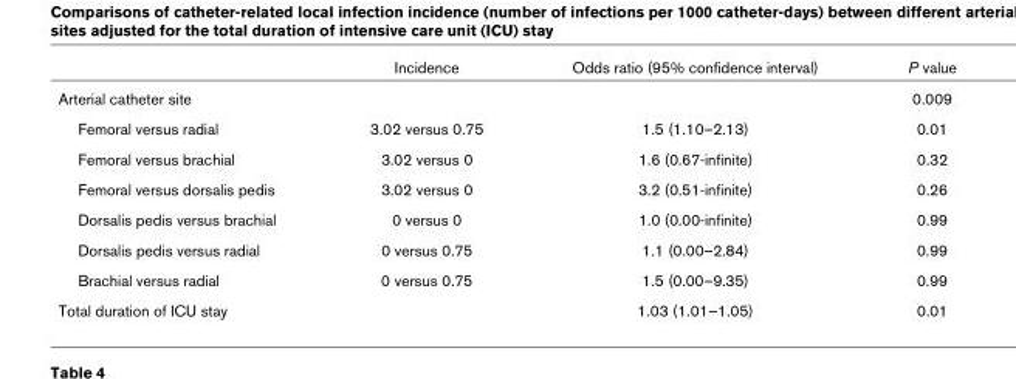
<table><thead><tr><td></td><td>Incidence</td><td>Odds ratio (95% confidence interval)</td><td>P value</td></tr></thead><tbody><tr><td>Arterial catheter site</td><td></td><td></td><td>0.009</td></tr><tr><td>Femoral versus radial</td><td>3.02 versus 0.75</td><td>1.5 (1.10–2.13)</td><td>0.01</td></tr><tr><td>Femoral versus brachial</td><td>3.02 versus 0</td><td>1.6 (0.67-infinite)</td><td>0.32</td></tr><tr><td>Femoral versus dorsalis pedis</td><td>3.02 versus 0</td><td>3.2 (0.51-infinite)</td><td>0.26</td></tr><tr><td>Dorsalis pedis versus brachial</td><td>0 versus 0</td><td>1.0 (0.00-infinite)</td><td>0.99</td></tr><tr><td>Dorsalis pedis versus radial</td><td>0 versus 0.75</td><td>1.1 (0.00–2.84)</td><td>0.99</td></tr><tr><td>Brachial versus radial</td><td>0 versus 0.75</td><td>1.5 (0.00–9.35)</td><td>0.99</td></tr><tr><td>Total duration of ICU stay</td><td></td><td>1.03 (1.01–1.05)</td><td>0.01</td></tr></tbody></table>